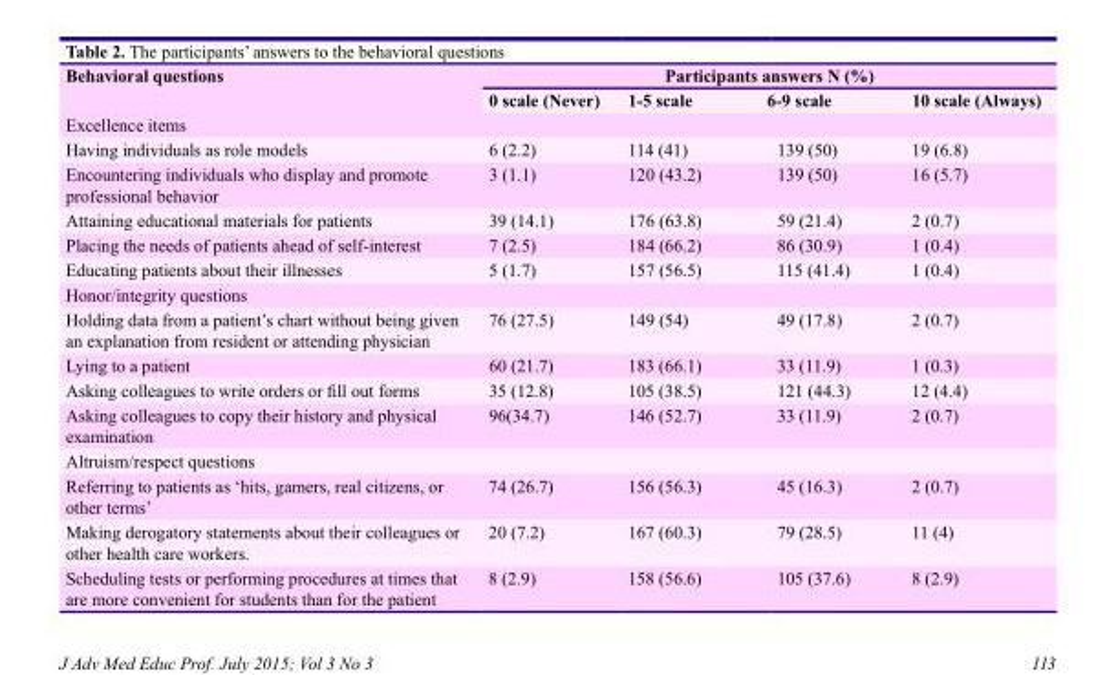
<table><thead><tr><td rowspan="2">Behavioral questions</td><td colspan="4">Participants answers N (%)</td></tr><tr><td>0 scale (Never)</td><td>1-5 scale</td><td>6-9 scale</td><td>10 scale (Always)</td></tr></thead><tbody><tr><td colspan="5">Excellence items</td></tr><tr><td>Having individuals as role models</td><td>6 (2.2)</td><td>114 (41)</td><td>139 (50)</td><td>19 (6.8)</td></tr><tr><td>Encountering individuals who display and promote professional behavior</td><td>3 (1.1)</td><td>120 (43.2)</td><td>139 (50)</td><td>16 (5.7)</td></tr><tr><td>Attaining educational materials for patients</td><td>39 (14.1)</td><td>176 (63.8)</td><td>59 (21.4)</td><td>2 (0.7)</td></tr><tr><td>Placing the needs of patients ahead of self-interest</td><td>7 (2.5)</td><td>184 (66.2)</td><td>86 (30.9)</td><td>1 (0.4)</td></tr><tr><td>Educating patients about their illnesses</td><td>5 (1.7)</td><td>157 (56.5)</td><td>115 (41.4)</td><td>1 (0.4)</td></tr><tr><td colspan="5">Honor/integrity questions</td></tr><tr><td>Holding data from a patient’s chart without being given an explanation from resident or attending physician</td><td>76 (27.5)</td><td>149 (54)</td><td>49 (17.8)</td><td>2 (0.7)</td></tr><tr><td>Lying to a patient</td><td>60 (21.7)</td><td>183 (66.1)</td><td>33 (11.9)</td><td>1 (0.3)</td></tr><tr><td>Asking colleagues to write orders or fill out forms</td><td>35 (12.8)</td><td>105 (38.5)</td><td>121 (44.3)</td><td>12 (4.4)</td></tr><tr><td>Asking colleagues to copy their history and physical examination</td><td>96(34.7)</td><td>146 (52.7)</td><td>33 (11.9)</td><td>2 (0.7)</td></tr><tr><td colspan="5">Altruism/respect questions</td></tr><tr><td>Referring to patients as ‘hits, gamers, real citizens, or other terms’</td><td>74 (26.7)</td><td>156 (56.3)</td><td>45 (16.3)</td><td>2 (0.7)</td></tr><tr><td>Making derogatory statements about their colleagues or other health care workers.</td><td>20 (7.2)</td><td>167 (60.3)</td><td>79 (28.5)</td><td>11 (4)</td></tr><tr><td>Scheduling tests or performing procedures at times that are more convenient for students than for the patient</td><td>8 (2.9)</td><td>158 (56.6)</td><td>105 (37.6)</td><td>8 (2.9)</td></tr></tbody></table>